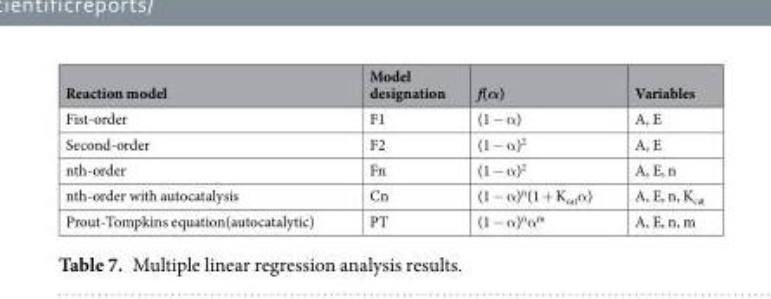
<table><thead><tr><td>Reaction model</td><td>Model designation</td><td>f(α)</td><td>Variables</td></tr></thead><tbody><tr><td>Fist-order</td><td>F1</td><td>(1 − α)</td><td>A, E</td></tr><tr><td>Second-order</td><td>F2</td><td>(1 − α)<sup>2</sup></td><td>A, E</td></tr><tr><td>nth-order</td><td>Fn</td><td>(1 − α)<sup>2</sup></td><td>A, E, n</td></tr><tr><td>nth-order with autocatalysis</td><td>Cn</td><td>(1 − α)<sup>n</sup>(1 + K<sub>cat</sub>α)</td><td>A, E, n, K<sub>cat</sub></td></tr><tr><td>Prout-Tompkins equation(autocatalytic)</td><td>PT</td><td>(1 − α)<sup>n</sup>α<sup>m</sup></td><td>A, E, n, m</td></tr></tbody></table>